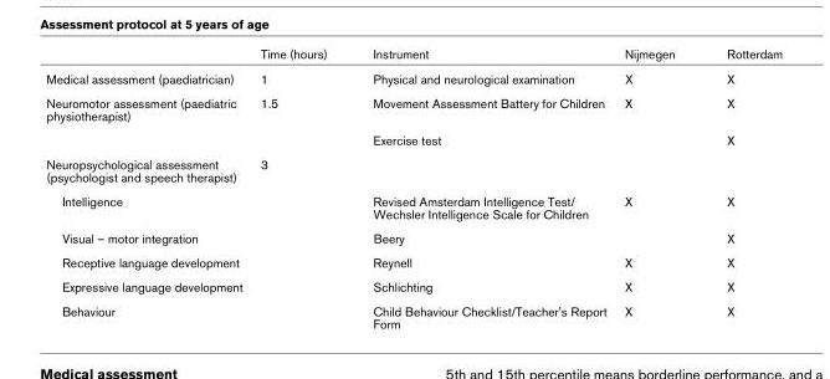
<table><thead><tr><td></td><td>Time (hours)</td><td>Instrument</td><td>Nijmegen</td><td>Rotterdam</td></tr></thead><tbody><tr><td>Medical assessment (paediatrician)</td><td>1</td><td>Physical and neurological examination</td><td>X</td><td>X</td></tr><tr><td rowspan="2">Neuromotor assessment (paediatric physiotherapist)</td><td>1.5</td><td>Movement Assessment Battery for Children</td><td>X</td><td>X</td></tr><tr><td></td><td>Exercise test</td><td></td><td>X</td></tr><tr><td>Neuropsychological assessment (psychologist and speech therapist)</td><td>3</td><td></td><td></td><td></td></tr><tr><td>Intelligence</td><td></td><td>Revised Amsterdam Intelligence Test/ Wechsler Intelligence Scale for Children</td><td>X</td><td>X</td></tr><tr><td>Visual – motor integration</td><td></td><td>Beery</td><td></td><td>X</td></tr><tr><td>Receptive language development</td><td></td><td>Reynell</td><td>X</td><td>X</td></tr><tr><td>Expressive language development</td><td></td><td>Schlichting</td><td>X</td><td>X</td></tr><tr><td>Behaviour</td><td></td><td>Child Behaviour Checklist/Teacher&#x27;s Report Form</td><td>X</td><td>X</td></tr></tbody></table>